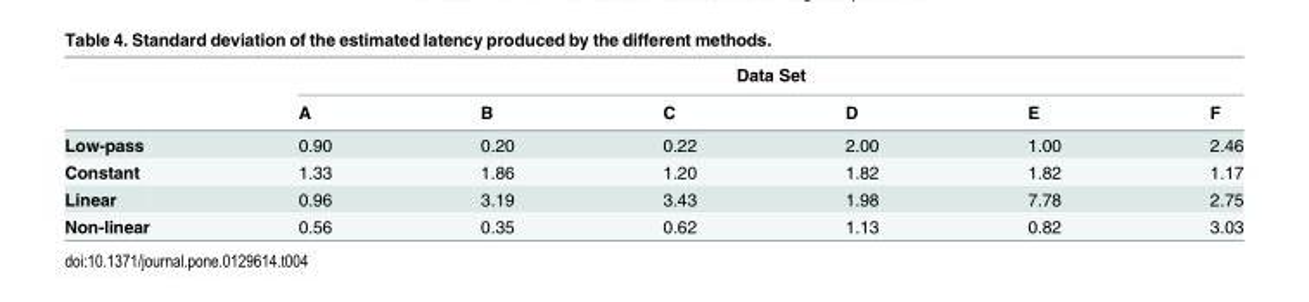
<table><thead><tr><td rowspan="2"></td><td colspan="6">Data Set</td></tr><tr><td>A</td><td>B</td><td>C</td><td>D</td><td>E</td><td>F</td></tr></thead><tbody><tr><td>Low-pass</td><td>0.90</td><td>0.20</td><td>0.22</td><td>2.00</td><td>1.00</td><td>2.46</td></tr><tr><td>Constant</td><td>1.33</td><td>1.86</td><td>1.20</td><td>1.82</td><td>1.82</td><td>1.17</td></tr><tr><td>Linear</td><td>0.96</td><td>3.19</td><td>3.43</td><td>1.98</td><td>7.78</td><td>2.75</td></tr><tr><td>Non-linear</td><td>0.56</td><td>0.35</td><td>0.62</td><td>1.13</td><td>0.82</td><td>3.03</td></tr></tbody></table>